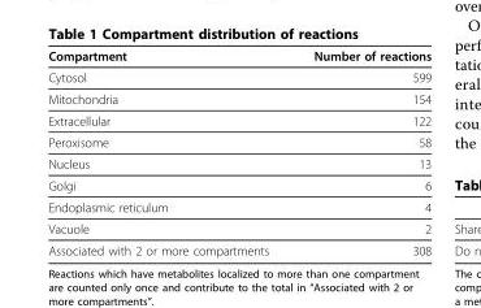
<table><thead><tr><td>Compartment</td><td>Number of reactions</td></tr></thead><tbody><tr><td>Cytosol</td><td>599</td></tr><tr><td>Mitochondria</td><td>154</td></tr><tr><td>Extracellular</td><td>122</td></tr><tr><td>Peroxisome</td><td>58</td></tr><tr><td>Nucleus</td><td>13</td></tr><tr><td>Golgi</td><td>6</td></tr><tr><td>Endoplasmic reticulum</td><td>4</td></tr><tr><td>Vacuole</td><td>2</td></tr><tr><td>Associated with 2 or more compartments</td><td>308</td></tr></tbody></table>